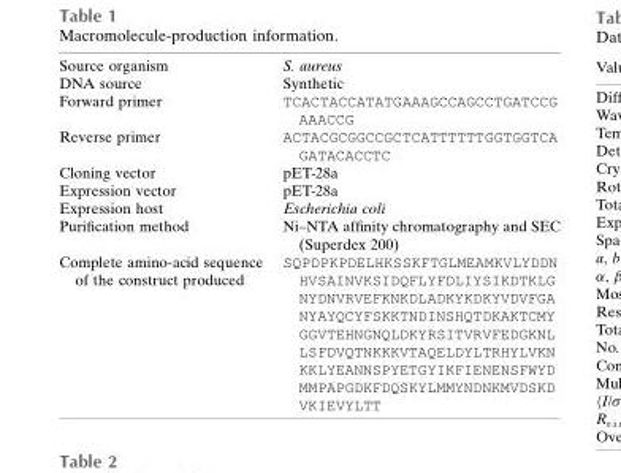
<table><tbody><tr><td>Source organism</td><td>S. aureus</td></tr><tr><td>DNA source</td><td>Synthetic</td></tr><tr><td>Forward primer</td><td>TCACTACCATATGAAAGCCAGCCTGATCCG AAACCG</td></tr><tr><td>Reverse primer</td><td>ACTACGCGGCCGCTCATTTTTTGGTGGTCA GATACACCTC</td></tr><tr><td>Cloning vector</td><td>pET-28a</td></tr><tr><td>Expression vector</td><td>pET-28a</td></tr><tr><td>Expression host</td><td>Escherichia coli</td></tr><tr><td>Purification method</td><td>Ni–NTA affinity chromatography and SEC (Superdex 200)</td></tr><tr><td>Complete amino-acid sequence of the construct produced</td><td>SQPDPKPDELHKSSKFTGLMEAMKVLYDDN HVSAINVKSIDQFLYFDLIYSIKDTKLG NYDNVRVEFKNKDLADKYKDKYVDVFGA NYAYQCYFSKKTNDINSHQTDKAKTCMY GGVTEHNGNQLDKYRSITVRVFEDGKNL LSFDVQTNKKKVTAQELDYLTRHYLVKN KKLYEANNSPYETGYIKFIENENSFWYD MMPAPGDKFDQSKYLMMYNDNKMVDSKD VKIEVYLTT</td></tr></tbody></table>